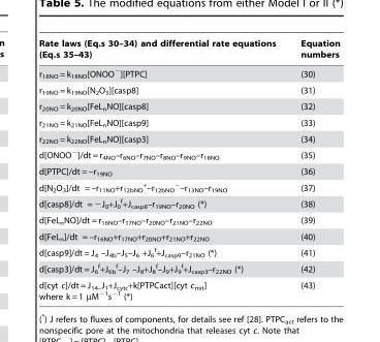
<table><thead><tr><td>Rate laws (Eq.s 30–34) and differential rate equations (Eq.s 35–43)</td><td>Equation numbers</td></tr></thead><tbody><tr><td>r<sub>18NO</sub> = k<sub>18NO</sub>[ONOO<sup>−</sup>][PTPC]</td><td>(30)</td></tr><tr><td>r<sub>19NO</sub> = k<sub>19NO</sub>[N<sub>2</sub>O<sub>3</sub>][casp8]</td><td>(31)</td></tr><tr><td>r<sub>20NO</sub> = k<sub>20NO</sub>[FeL<sub>n</sub>NO][casp8]</td><td>(32)</td></tr><tr><td>r<sub>21NO</sub> = k<sub>21NO</sub>[FeL<sub>n</sub>NO][casp9]</td><td>(33)</td></tr><tr><td>r<sub>22NO</sub> = k<sub>22NO</sub>[FeL<sub>n</sub>NO][casp3]</td><td>(34)</td></tr><tr><td>d[ONOO<sup>−</sup>]/dt = r<sub>4NO</sub>–r<sub>6NO</sub>–r<sub>7NO</sub>–r<sub>8NO</sub>–r<sub>9NO</sub>–r<sub>18NO</sub></td><td>(35)</td></tr><tr><td>d[PTPC]/dt = –r<sub>19NO</sub></td><td>(36)</td></tr><tr><td>d[N<sub>2</sub>O<sub>3</sub>]/dt = –r<sub>11NO</sub>+r<sub>12bNO</sub> <sup>+</sup>–r<sub>12bNO</sub> <sup>−</sup>–r<sub>13NO</sub>–r<sub>19NO</sub></td><td>(37)</td></tr><tr><td>d[casp8]/dt = −J<sub>0</sub>+J<sub>0</sub> <sup>f</sup>+J<sub>casp8</sub>–r<sub>19NO</sub>–r<sub>20NO</sub> (*)</td><td>(38)</td></tr><tr><td>d[FeL<sub>n</sub>NO]/dt = r<sub>16NO</sub>–r<sub>17NO</sub>–r<sub>20NO</sub>–r<sub>21NO</sub>–r<sub>22NO</sub></td><td>(39)</td></tr><tr><td>d[FeL<sub>n</sub>]/dt = –r<sub>16NO</sub>+r<sub>17NO</sub>+r<sub>20NO</sub>+r<sub>21NO</sub>+r<sub>22NO</sub></td><td>(40)</td></tr><tr><td>d[casp9]/dt = J<sub>4</sub> –J<sub>4b</sub>–J<sub>5</sub>–J<sub>6</sub> +J<sub>6</sub> <sup>f</sup>+J<sub>casp9</sub>–r<sub>21NO</sub> (*)</td><td>(41)</td></tr><tr><td>d[casp3]/dt = J<sub>6</sub> <sup>f</sup>+J<sub>6b</sub> <sup>f</sup>–J<sub>7</sub> –J<sub>8</sub>+J<sub>8</sub> <sup>f</sup>–J<sub>9</sub>+J<sub>9</sub> <sup>f</sup>+J<sub>casp3</sub>–r<sub>22NO</sub> (*)</td><td>(42)</td></tr><tr><td>d[cyt c]/dt = J<sub>14–</sub>J<sub>1</sub>+J<sub>cytc</sub>+k[PTPCact][cyt c<sub>mit</sub>] where k = 1 µM<sup>−1</sup>s<sup>−1</sup> (*)</td><td>(43)</td></tr></tbody></table>